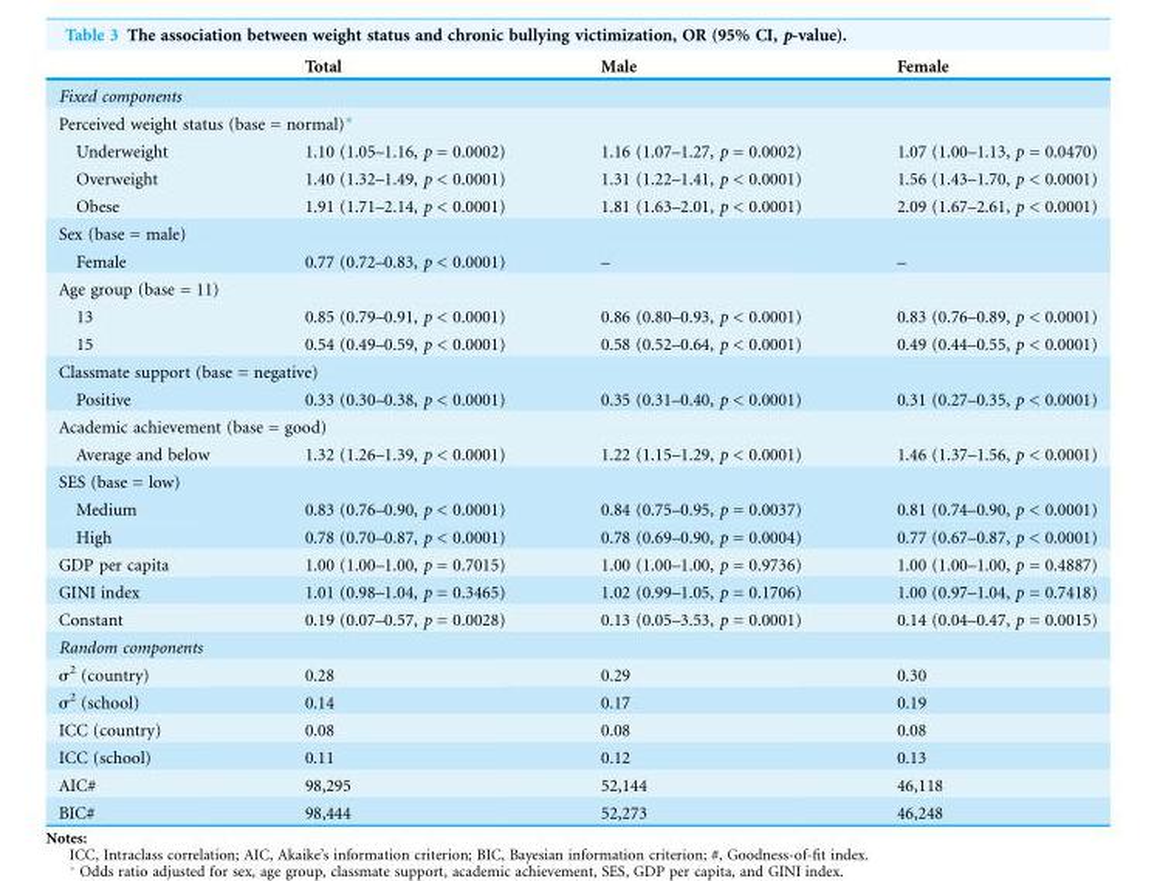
<table><thead><tr><td></td><td>Total</td><td>Male</td><td>Female</td></tr></thead><tbody><tr><td colspan="4">Fixed components</td></tr><tr><td colspan="4">Perceived weight status (base = normal)*</td></tr><tr><td>Underweight</td><td>1.10 (1.05–1.16, p = 0.0002)</td><td>1.16 (1.07–1.27, p = 0.0002)</td><td>1.07 (1.00–1.13, p = 0.0470)</td></tr><tr><td>Overweight</td><td>1.40 (1.32–1.49, p &lt; 0.0001)</td><td>1.31 (1.22–1.41, p &lt; 0.0001)</td><td>1.56 (1.43–1.70, p &lt; 0.0001)</td></tr><tr><td>Obese</td><td>1.91 (1.71–2.14, p &lt; 0.0001)</td><td>1.81 (1.63–2.01, p &lt; 0.0001)</td><td>2.09 (1.67–2.61, p &lt; 0.0001)</td></tr><tr><td colspan="4">Sex (base = male)</td></tr><tr><td>Female</td><td>0.77 (0.72–0.83, p &lt; 0.0001)</td><td>–</td><td>–</td></tr><tr><td colspan="4">Age group (base = 11)</td></tr><tr><td>13</td><td>0.85 (0.79–0.91, p &lt; 0.0001)</td><td>0.86 (0.80–0.93, p &lt; 0.0001)</td><td>0.83 (0.76–0.89, p &lt; 0.0001)</td></tr><tr><td>15</td><td>0.54 (0.49–0.59, p &lt; 0.0001)</td><td>0.58 (0.52–0.64, p &lt; 0.0001)</td><td>0.49 (0.44–0.55, p &lt; 0.0001)</td></tr><tr><td colspan="4">Classmate support (base = negative)</td></tr><tr><td>Positive</td><td>0.33 (0.30–0.38, p &lt; 0.0001)</td><td>0.35 (0.31–0.40, p &lt; 0.0001)</td><td>0.31 (0.27–0.35, p &lt; 0.0001)</td></tr><tr><td colspan="4">Academic achievement (base = good)</td></tr><tr><td>Average and below</td><td>1.32 (1.26–1.39, p &lt; 0.0001)</td><td>1.22 (1.15–1.29, p &lt; 0.0001)</td><td>1.46 (1.37–1.56, p &lt; 0.0001)</td></tr><tr><td colspan="4">SES (base = low)</td></tr><tr><td>Medium</td><td>0.83 (0.76–0.90, p &lt; 0.0001)</td><td>0.84 (0.75–0.95, p = 0.0037)</td><td>0.81 (0.74–0.90, p &lt; 0.0001)</td></tr><tr><td>High</td><td>0.78 (0.70–0.87, p &lt; 0.0001)</td><td>0.78 (0.69–0.90, p = 0.0004)</td><td>0.77 (0.67–0.87, p &lt; 0.0001)</td></tr><tr><td>GDP per capita</td><td>1.00 (1.00–1.00, p = 0.7015)</td><td>1.00 (1.00–1.00, p = 0.9736)</td><td>1.00 (1.00–1.00, p = 0.4887)</td></tr><tr><td>GINI index</td><td>1.01 (0.98–1.04, p = 0.3465)</td><td>1.02 (0.99–1.05, p = 0.1706)</td><td>1.00 (0.97–1.04, p = 0.7418)</td></tr><tr><td>Constant</td><td>0.19 (0.07–0.57, p = 0.0028)</td><td>0.13 (0.05–3.53, p = 0.0001)</td><td>0.14 (0.04–0.47, p = 0.0015)</td></tr><tr><td colspan="4">Random components</td></tr><tr><td>σ<sup>2</sup> (country)</td><td>0.28</td><td>0.29</td><td>0.30</td></tr><tr><td>σ<sup>2</sup> (school)</td><td>0.14</td><td>0.17</td><td>0.19</td></tr><tr><td>ICC (country)</td><td>0.08</td><td>0.08</td><td>0.08</td></tr><tr><td>ICC (school)</td><td>0.11</td><td>0.12</td><td>0.13</td></tr><tr><td>AIC#</td><td>98,295</td><td>52,144</td><td>46,118</td></tr><tr><td>BIC#</td><td>98,444</td><td>52,273</td><td>46,248</td></tr></tbody></table>